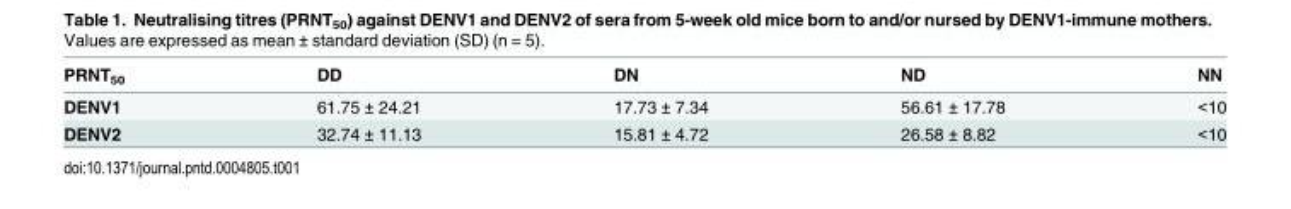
<table><thead><tr><td>PRNT<sub>50</sub></td><td>DD</td><td>DN</td><td>ND</td><td>NN</td></tr></thead><tbody><tr><td>DENV1</td><td>61.75 ± 24.21</td><td>17.73 ± 7.34</td><td>56.61 ± 17.78</td><td>&lt;10</td></tr><tr><td>DENV2</td><td>32.74 ± 11.13</td><td>15.81 ± 4.72</td><td>26.58 ± 8.82</td><td>&lt;10</td></tr></tbody></table>